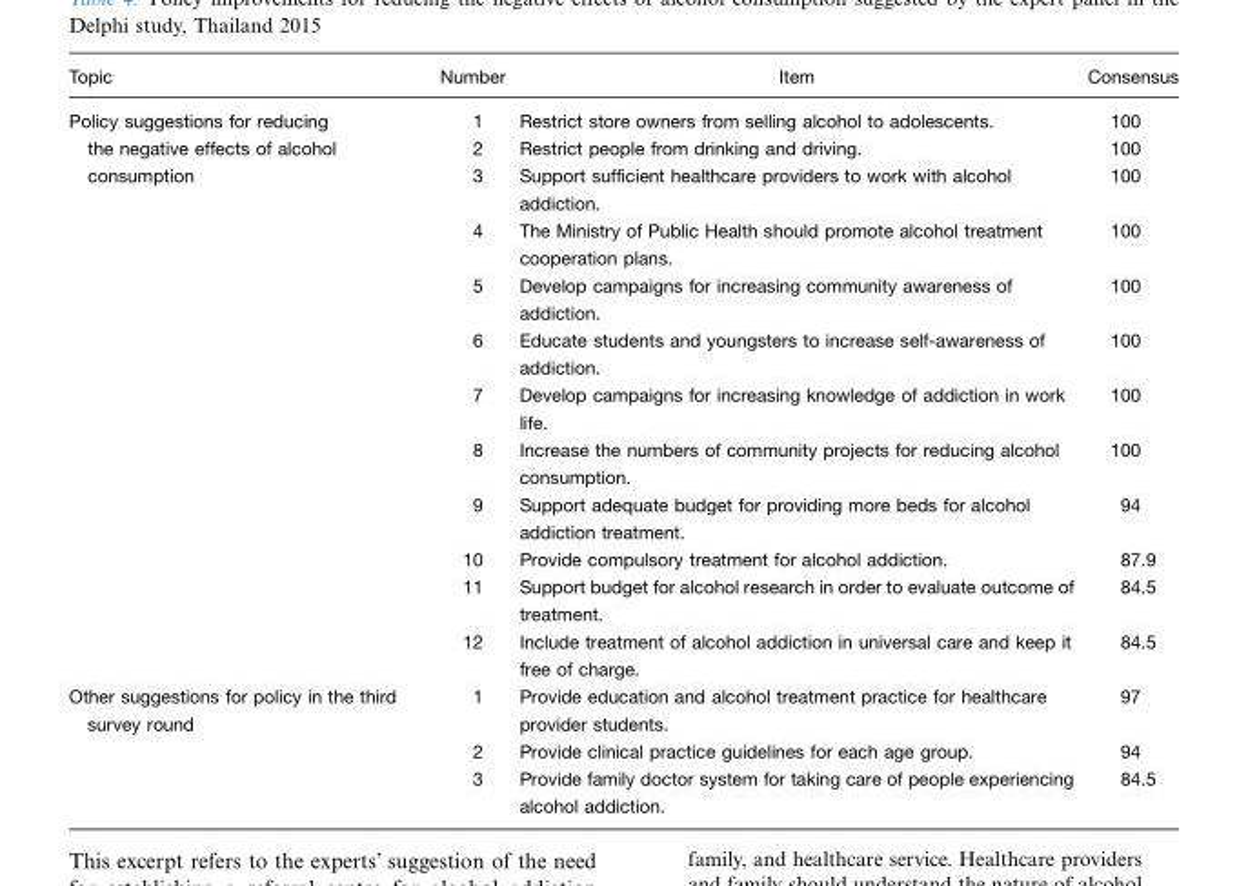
<table><thead><tr><td>Topic</td><td>Number</td><td>Item</td><td>Consensus</td></tr></thead><tbody><tr><td>Policy suggestions for reducing</td><td>1</td><td>Restrict store owners from selling alcohol to adolescents.</td><td>100</td></tr><tr><td>the negative effects of alcohol</td><td>2</td><td>Restrict people from drinking and driving.</td><td>100</td></tr><tr><td rowspan="10">consumption</td><td>3</td><td>Support sufficient healthcare providers to work with alcohol addiction.</td><td>100</td></tr><tr><td>4</td><td>The Ministry of Public Health should promote alcohol treatment cooperation plans.</td><td>100</td></tr><tr><td>5</td><td>Develop campaigns for increasing community awareness of addiction.</td><td>100</td></tr><tr><td>6</td><td>Educate students and youngsters to increase self-awareness of addiction.</td><td>100</td></tr><tr><td>7</td><td>Develop campaigns for increasing knowledge of addiction in work life.</td><td>100</td></tr><tr><td>8</td><td>Increase the numbers of community projects for reducing alcohol consumption.</td><td>100</td></tr><tr><td>9</td><td>Support adequate budget for providing more beds for alcohol addiction treatment.</td><td>94</td></tr><tr><td>10</td><td>Provide compulsory treatment for alcohol addiction.</td><td>87.9</td></tr><tr><td>11</td><td>Support budget for alcohol research in order to evaluate outcome of treatment.</td><td>84.5</td></tr><tr><td>12</td><td>Include treatment of alcohol addiction in universal care and keep it free of charge.</td><td>84.5</td></tr><tr><td rowspan="3">Other suggestions for policy in the third survey round</td><td>1</td><td>Provide education and alcohol treatment practice for healthcare provider students.</td><td>97</td></tr><tr><td>2</td><td>Provide clinical practice guidelines for each age group.</td><td>94</td></tr><tr><td>3</td><td>Provide family doctor system for taking care of people experiencing alcohol addiction.</td><td>84.5</td></tr></tbody></table>